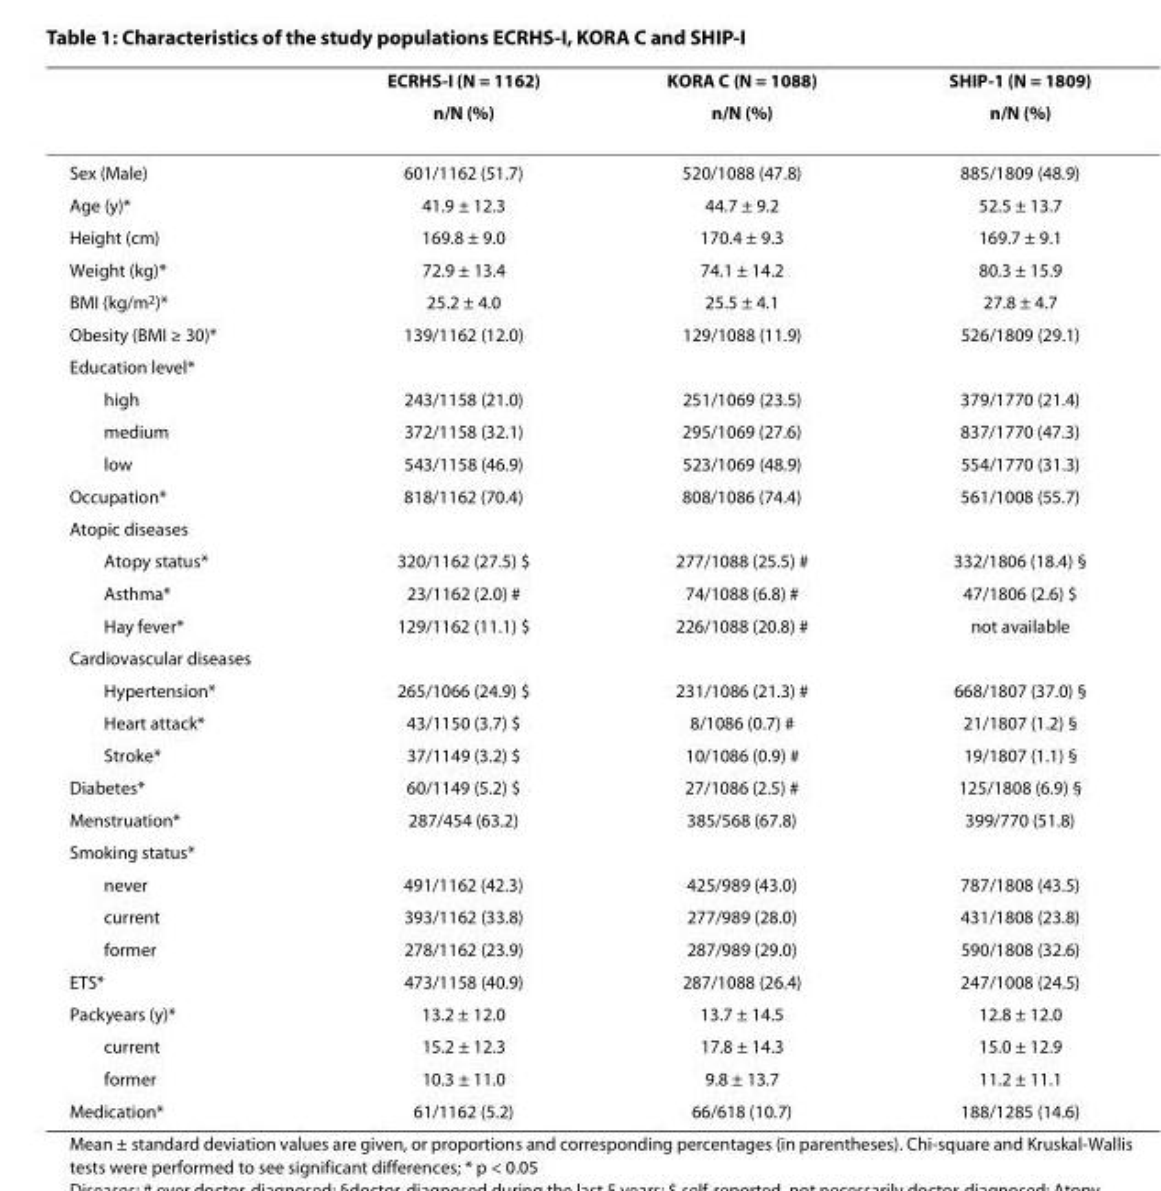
<table><thead><tr><td rowspan="2"></td><td rowspan="2">ECRHS-I (N = 1162) n/N (%)</td><td rowspan="2">KORA C (N = 1088) n/N (%)</td><td rowspan="2">SHIP-1 (N = 1809) n/N (%)</td></tr><tr></tr></thead><tbody><tr><td>Sex (Male)</td><td>601/1162 (51.7)</td><td>520/1088 (47.8)</td><td>885/1809 (48.9)</td></tr><tr><td>Age (y)*</td><td>41.9 ± 12.3</td><td>44.7 ± 9.2</td><td>52.5 ± 13.7</td></tr><tr><td>Height (cm)</td><td>169.8 ± 9.0</td><td>170.4 ± 9.3</td><td>169.7 ± 9.1</td></tr><tr><td>Weight (kg)*</td><td>72.9 ± 13.4</td><td>74.1 ± 14.2</td><td>80.3 ± 15.9</td></tr><tr><td>BMI (kg/m<sup>2</sup>)*</td><td>25.2 ± 4.0</td><td>25.5 ± 4.1</td><td>27.8 ± 4.7</td></tr><tr><td>Obesity (BMI ≥ 30)*</td><td>139/1162 (12.0)</td><td>129/1088 (11.9)</td><td>526/1809 (29.1)</td></tr><tr><td colspan="4">Education level*</td></tr><tr><td>high</td><td>243/1158 (21.0)</td><td>251/1069 (23.5)</td><td>379/1770 (21.4)</td></tr><tr><td>medium</td><td>372/1158 (32.1)</td><td>295/1069 (27.6)</td><td>837/1770 (47.3)</td></tr><tr><td>low</td><td>543/1158 (46.9)</td><td>523/1069 (48.9)</td><td>554/1770 (31.3)</td></tr><tr><td>Occupation*</td><td>818/1162 (70.4)</td><td>808/1086 (74.4)</td><td>561/1008 (55.7)</td></tr><tr><td colspan="4">Atopic diseases</td></tr><tr><td>Atopy status*</td><td>320/1162 (27.5) $</td><td>277/1088 (25.5) #</td><td>332/1806 (18.4) §</td></tr><tr><td>Asthma*</td><td>23/1162 (2.0) #</td><td>74/1088 (6.8) #</td><td>47/1806 (2.6) $</td></tr><tr><td>Hay fever*</td><td>129/1162 (11.1) $</td><td>226/1088 (20.8) #</td><td>not available</td></tr><tr><td colspan="4">Cardiovascular diseases</td></tr><tr><td>Hypertension*</td><td>265/1066 (24.9) $</td><td>231/1086 (21.3) #</td><td>668/1807 (37.0) §</td></tr><tr><td>Heart attack*</td><td>43/1150 (3.7) $</td><td>8/1086 (0.7) #</td><td>21/1807 (1.2) §</td></tr><tr><td>Stroke*</td><td>37/1149 (3.2) $</td><td>10/1086 (0.9) #</td><td>19/1807 (1.1) §</td></tr><tr><td>Diabetes*</td><td>60/1149 (5.2) $</td><td>27/1086 (2.5) #</td><td>125/1808 (6.9) §</td></tr><tr><td>Menstruation*</td><td>287/454 (63.2)</td><td>385/568 (67.8)</td><td>399/770 (51.8)</td></tr><tr><td colspan="4">Smoking status*</td></tr><tr><td>never</td><td>491/1162 (42.3)</td><td>425/989 (43.0)</td><td>787/1808 (43.5)</td></tr><tr><td>current</td><td>393/1162 (33.8)</td><td>277/989 (28.0)</td><td>431/1808 (23.8)</td></tr><tr><td>former</td><td>278/1162 (23.9)</td><td>287/989 (29.0)</td><td>590/1808 (32.6)</td></tr><tr><td>ETS*</td><td>473/1158 (40.9)</td><td>287/1088 (26.4)</td><td>247/1008 (24.5)</td></tr><tr><td>Packyears (y)*</td><td>13.2 ± 12.0</td><td>13.7 ± 14.5</td><td>12.8 ± 12.0</td></tr><tr><td>current</td><td>15.2 ± 12.3</td><td>17.8 ± 14.3</td><td>15.0 ± 12.9</td></tr><tr><td>former</td><td>10.3 ± 11.0</td><td>9.8 ± 13.7</td><td>11.2 ± 11.1</td></tr><tr><td>Medication*</td><td>61/1162 (5.2)</td><td>66/618 (10.7)</td><td>188/1285 (14.6)</td></tr></tbody></table>